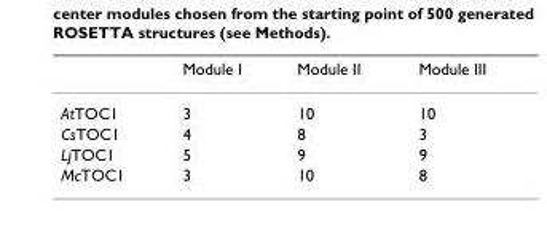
<table><thead><tr><td></td><td>Module I</td><td>Module II</td><td>Module III</td></tr></thead><tbody><tr><td>AtTOC1</td><td>3</td><td>10</td><td>10</td></tr><tr><td>CsTOC1</td><td>4</td><td>8</td><td>3</td></tr><tr><td>LjTOC1</td><td>5</td><td>9</td><td>9</td></tr><tr><td>McTOC1</td><td>3</td><td>10</td><td>8</td></tr></tbody></table>